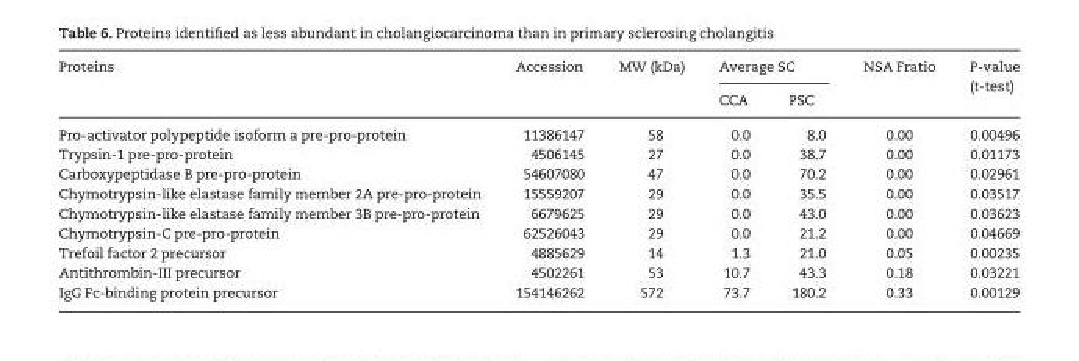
<table><thead><tr><td rowspan="2">Proteins</td><td rowspan="2">Accession</td><td rowspan="2">MW (kDa)</td><td colspan="2">Average SC</td><td rowspan="2">NSA Fratio</td><td rowspan="2">P-value (t-test)</td></tr><tr><td>CCA</td><td>PSC</td></tr></thead><tbody><tr><td>Pro-activator polypeptide isoform a pre-pro-protein</td><td>11386147</td><td>58</td><td>0.0</td><td>8.0</td><td>0.00</td><td>0.00496</td></tr><tr><td>Trypsin-1 pre-pro-protein</td><td>4506145</td><td>27</td><td>0.0</td><td>38.7</td><td>0.00</td><td>0.01173</td></tr><tr><td>Carboxypeptidase B pre-pro-protein</td><td>54607080</td><td>47</td><td>0.0</td><td>70.2</td><td>0.00</td><td>0.02961</td></tr><tr><td>Chymotrypsin-like elastase family member 2A pre-pro-protein</td><td>15559207</td><td>29</td><td>0.0</td><td>35.5</td><td>0.00</td><td>0.03517</td></tr><tr><td>Chymotrypsin-like elastase family member 3B pre-pro-protein</td><td>6679625</td><td>29</td><td>0.0</td><td>43.0</td><td>0.00</td><td>0.03623</td></tr><tr><td>Chymotrypsin-C pre-pro-protein</td><td>62526043</td><td>29</td><td>0.0</td><td>21.2</td><td>0.00</td><td>0.04669</td></tr><tr><td>Trefoil factor 2 precursor</td><td>4885629</td><td>14</td><td>1.3</td><td>21.0</td><td>0.05</td><td>0.00235</td></tr><tr><td>Antithrombin-III precursor</td><td>4502261</td><td>53</td><td>10.7</td><td>43.3</td><td>0.18</td><td>0.03221</td></tr><tr><td>IgG Fc-binding protein precursor</td><td>154146262</td><td>572</td><td>73.7</td><td>180.2</td><td>0.33</td><td>0.00129</td></tr></tbody></table>